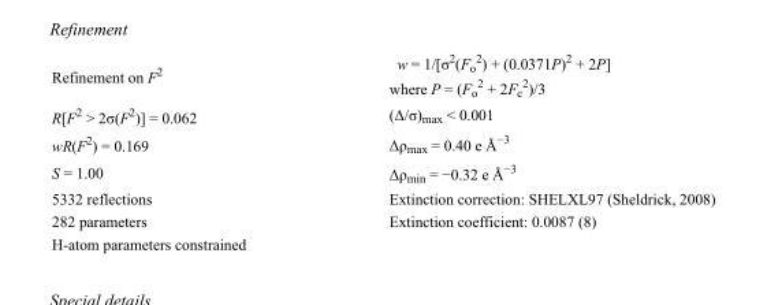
<table><tbody><tr><td>Refinement on F<sup>2</sup></td><td>w = 1/[σ<sup>2</sup>(F<sub>o</sub> <sup>2</sup>) + (0.0371P)<sup>2</sup> + 2P] where P = (F<sub>o</sub> <sup>2</sup> + 2F<sub>c</sub> <sup>2</sup>)/3</td></tr><tr><td>R[F<sup>2</sup> &gt; 2σ(F<sup>2</sup>)] = 0.062</td><td>(Δ/σ)<sub>max</sub> &lt; 0.001</td></tr><tr><td>wR(F<sup>2</sup>) = 0.169</td><td>Δρ<sub>max</sub> = 0.40 e Å<sup>−3</sup></td></tr><tr><td>S = 1.00</td><td>Δρ<sub>min</sub> = −0.32 e Å<sup>−3</sup></td></tr><tr><td>5332 reflections</td><td>Extinction correction: SHELXL97 (Sheldrick, 2008)</td></tr><tr><td>282 parameters</td><td>Extinction coefficient: 0.0087 (8)</td></tr><tr><td>H-atom parameters constrained</td><td></td></tr></tbody></table>